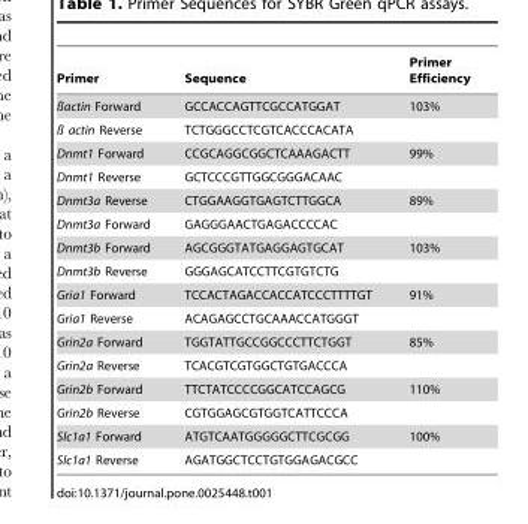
<table><thead><tr><td>Primer</td><td>Sequence</td><td>Primer Efficiency</td></tr></thead><tbody><tr><td>ßactin Forward</td><td>GCCACCAGTTCGCCATGGAT</td><td>103%</td></tr><tr><td>ß actin Reverse</td><td>TCTGGGCCTCGTCACCCACATA</td><td></td></tr><tr><td>Dnmt1 Forward</td><td>CCGCAGGCGGCTCAAAGACTT</td><td>99%</td></tr><tr><td>Dnmt1 Reverse</td><td>GCTCCCGTTGGCGGGACAAC</td><td></td></tr><tr><td>Dnmt3a Reverse</td><td>CTGGAAGGTGAGTCTTGGCA</td><td>89%</td></tr><tr><td>Dnmt3a Forward</td><td>GAGGGAACTGAGACCCCAC</td><td></td></tr><tr><td>Dnmt3b Forward</td><td>AGCGGGTATGAGGAGTGCAT</td><td>103%</td></tr><tr><td>Dnmt3b Reverse</td><td>GGGAGCATCCTTCGTGTCTG</td><td></td></tr><tr><td>Gria1 Forward</td><td>TCCACTAGACCACCATCCCTTTTGT</td><td>91%</td></tr><tr><td>Gria1 Reverse</td><td>ACAGAGCCTGCAAACCATGGGT</td><td></td></tr><tr><td>Grin2a Forward</td><td>TGGTATTGCCGGCCCTTCTGGT</td><td>85%</td></tr><tr><td>Grin2a Reverse</td><td>TCACGTCGTGGCTGTGACCCA</td><td></td></tr><tr><td>Grin2b Forward</td><td>TTCTATCCCCGGCATCCAGCG</td><td>110%</td></tr><tr><td>Grin2b Reverse</td><td>CGTGGAGCGTGGTCATTCCCA</td><td></td></tr><tr><td>Slc1a1 Forward</td><td>ATGTCAATGGGGGCTTCGCGG</td><td>100%</td></tr><tr><td>Slc1a1 Reverse</td><td>AGATGGCTCCTGTGGAGACGCC</td><td></td></tr></tbody></table>